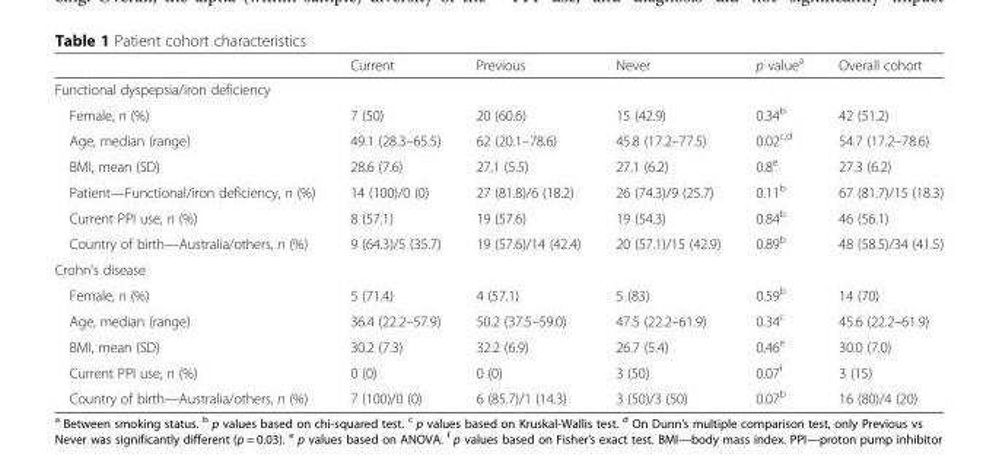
<table><thead><tr><td></td><td>Current</td><td>Previous</td><td>Never</td><td>p value<sup>a</sup></td><td>Overall cohort</td></tr></thead><tbody><tr><td colspan="6">Functional dyspepsia/iron deficiency</td></tr><tr><td>Female, n (%)</td><td>7 (50)</td><td>20 (60.6)</td><td>15 (42.9)</td><td>0.34<sup>b</sup></td><td>42 (51.2)</td></tr><tr><td>Age, median (range)</td><td>49.1 (28.3–65.5)</td><td>62 (20.1–78.6)</td><td>45.8 (17.2–77.5)</td><td>0.02<sup>c,d</sup></td><td>54.7 (17.2–78.6)</td></tr><tr><td>BMI, mean (SD)</td><td>28.6 (7.6)</td><td>27.1 (5.5)</td><td>27.1 (6.2)</td><td>0.8<sup>e</sup></td><td>27.3 (6.2)</td></tr><tr><td>Patient—Functional/iron deficiency, n (%)</td><td>14 (100)/0 (0)</td><td>27 (81.8)/6 (18.2)</td><td>26 (74.3)/9 (25.7)</td><td>0.11<sup>b</sup></td><td>67 (81.7)/15 (18.3)</td></tr><tr><td>Current PPI use, n (%)</td><td>8 (57.1)</td><td>19 (57.6)</td><td>19 (54.3)</td><td>0.84<sup>b</sup></td><td>46 (56.1)</td></tr><tr><td>Country of birth—Australia/others, n (%)</td><td>9 (64.3)/5 (35.7)</td><td>19 (57.6)/14 (42.4)</td><td>20 (57.1)/15 (42.9)</td><td>0.89<sup>b</sup></td><td>48 (58.5)/34 (41.5)</td></tr><tr><td colspan="6">Crohn’s disease</td></tr><tr><td>Female, n (%)</td><td>5 (71.4)</td><td>4 (57.1)</td><td>5 (83)</td><td>0.59<sup>b</sup></td><td>14 (70)</td></tr><tr><td>Age, median (range)</td><td>36.4 (22.2–57.9)</td><td>50.2 (37.5–59.0)</td><td>47.5 (22.2–61.9)</td><td>0.34<sup>c</sup></td><td>45.6 (22.2–61.9)</td></tr><tr><td>BMI, mean (SD)</td><td>30.2 (7.3)</td><td>32.2 (6.9)</td><td>26.7 (5.4)</td><td>0.46<sup>e</sup></td><td>30.0 (7.0)</td></tr><tr><td>Current PPI use, n (%)</td><td>0 (0)</td><td>0 (0)</td><td>3 (50)</td><td>0.07<sup>f</sup></td><td>3 (15)</td></tr><tr><td>Country of birth—Australia/others, n (%)</td><td>7 (100)/0 (0)</td><td>6 (85.7)/1 (14.3)</td><td>3 (50)/3 (50)</td><td>0.07<sup>b</sup></td><td>16 (80)/4 (20)</td></tr></tbody></table>